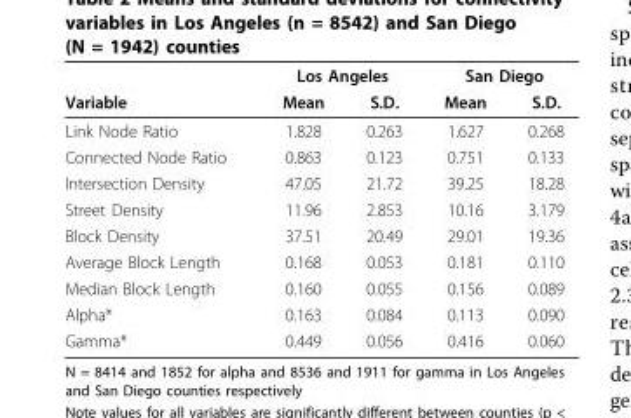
<table><thead><tr><td rowspan="2">Variable</td><td colspan="2">Los Angeles</td><td colspan="2">San Diego</td></tr><tr><td>Mean</td><td>S.D.</td><td>Mean</td><td>S.D.</td></tr></thead><tbody><tr><td>Link Node Ratio</td><td>1.828</td><td>0.263</td><td>1.627</td><td>0.268</td></tr><tr><td>Connected Node Ratio</td><td>0.863</td><td>0.123</td><td>0.751</td><td>0.133</td></tr><tr><td>Intersection Density</td><td>47.05</td><td>21.72</td><td>39.25</td><td>18.28</td></tr><tr><td>Street Density</td><td>11.96</td><td>2.853</td><td>10.16</td><td>3.179</td></tr><tr><td>Block Density</td><td>37.51</td><td>20.49</td><td>29.01</td><td>19.36</td></tr><tr><td>Average Block Length</td><td>0.168</td><td>0.053</td><td>0.181</td><td>0.110</td></tr><tr><td>Median Block Length</td><td>0.160</td><td>0.055</td><td>0.156</td><td>0.089</td></tr><tr><td>Alpha*</td><td>0.163</td><td>0.084</td><td>0.113</td><td>0.090</td></tr><tr><td>Gamma*</td><td>0.449</td><td>0.056</td><td>0.416</td><td>0.060</td></tr></tbody></table>